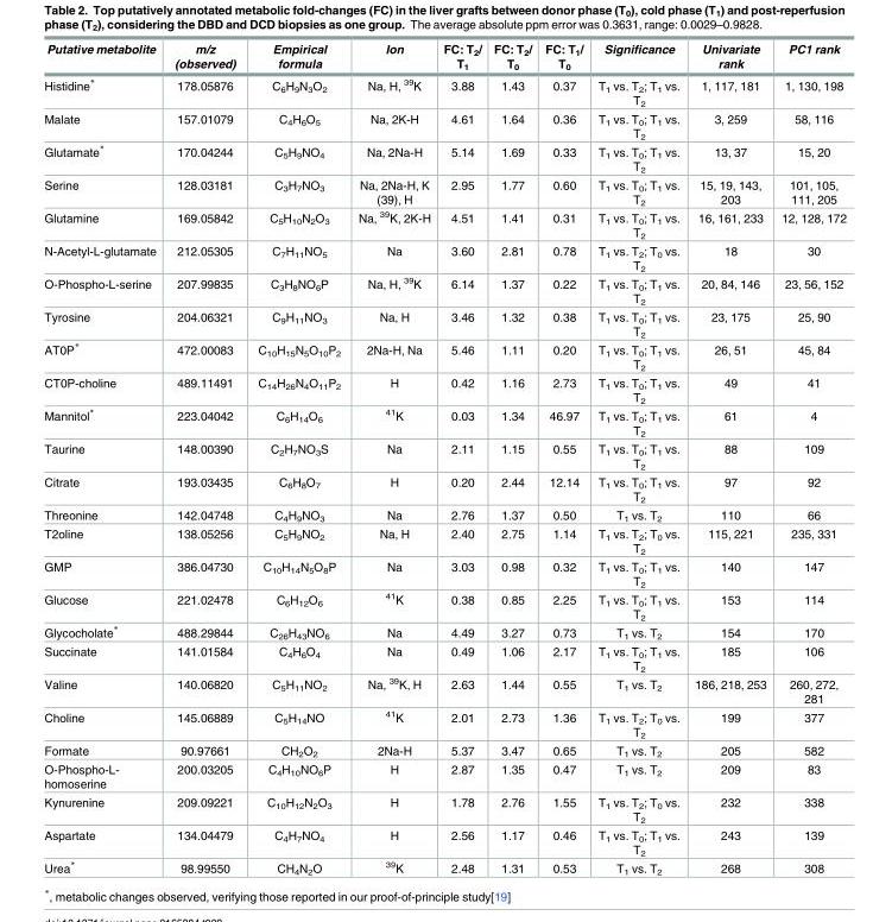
<table><thead><tr><td>Putative metabolite</td><td>m/z (observed)</td><td>Empirical formula</td><td>Ion</td><td>FC: T<sub>2</sub>/ T<sub>1</sub></td><td>FC: T<sub>2</sub>/ T<sub>0</sub></td><td>FC: T<sub>1</sub>/ T<sub>0</sub></td><td>Significance</td><td>Univariate rank</td><td>PC1 rank</td></tr></thead><tbody><tr><td>Histidine*</td><td>178.05876</td><td>C<sub>6</sub>H<sub>9</sub>N<sub>3</sub>O<sub>2</sub></td><td>Na, H, <sup>39</sup>K</td><td>3.88</td><td>1.43</td><td>0.37</td><td>T<sub>1</sub> vs. T<sub>2</sub>; T<sub>1</sub> vs. T<sub>2</sub></td><td>1, 117, 181</td><td>1, 130, 198</td></tr><tr><td>Malate</td><td>157.01079</td><td>C<sub>4</sub>H<sub>6</sub>O<sub>5</sub></td><td>Na, 2K-H</td><td>4.61</td><td>1.64</td><td>0.36</td><td>T<sub>1</sub> vs. T<sub>0</sub>; T<sub>1</sub> vs. T<sub>2</sub></td><td>3, 259</td><td>58, 116</td></tr><tr><td>Glutamate*</td><td>170.04244</td><td>C<sub>5</sub>H<sub>9</sub>NO<sub>4</sub></td><td>Na, 2Na-H</td><td>5.14</td><td>1.69</td><td>0.33</td><td>T<sub>1</sub> vs. T<sub>0</sub>; T<sub>1</sub> vs. T<sub>2</sub></td><td>13, 37</td><td>15, 20</td></tr><tr><td>Serine</td><td>128.03181</td><td>C<sub>3</sub>H<sub>7</sub>NO<sub>3</sub></td><td>Na, 2Na-H, K (39), H</td><td>2.95</td><td>1.77</td><td>0.60</td><td>T<sub>1</sub> vs. T<sub>0</sub>; T<sub>1</sub> vs. T<sub>2</sub></td><td>15, 19, 143, 203</td><td>101, 105, 111, 205</td></tr><tr><td>Glutamine</td><td>169.05842</td><td>C<sub>5</sub>H<sub>10</sub>N<sub>2</sub>O<sub>3</sub></td><td>Na, <sup>39</sup>K, 2K-H</td><td>4.51</td><td>1.41</td><td>0.31</td><td>T<sub>1</sub> vs. T<sub>0</sub>; T<sub>1</sub> vs. T<sub>2</sub></td><td>16, 161, 233</td><td>12, 128, 172</td></tr><tr><td>N-Acetyl-L-glutamate</td><td>212.05305</td><td>C<sub>7</sub>H<sub>11</sub>NO<sub>5</sub></td><td>Na</td><td>3.60</td><td>2.81</td><td>0.78</td><td>T<sub>1</sub> vs. T<sub>2</sub>; T<sub>0</sub> vs. T<sub>2</sub></td><td>18</td><td>30</td></tr><tr><td>O-Phospho-L-serine</td><td>207.99835</td><td>C<sub>3</sub>H<sub>8</sub>NO<sub>6</sub>P</td><td>Na, H, <sup>39</sup>K</td><td>6.14</td><td>1.37</td><td>0.22</td><td>T<sub>1</sub> vs. T<sub>0</sub>; T<sub>1</sub> vs. T<sub>2</sub></td><td>20, 84, 146</td><td>23, 56, 152</td></tr><tr><td>Tyrosine</td><td>204.06321</td><td>C<sub>9</sub>H<sub>11</sub>NO<sub>3</sub></td><td>Na, H</td><td>3.46</td><td>1.32</td><td>0.38</td><td>T<sub>1</sub> vs. T<sub>0</sub>; T<sub>1</sub> vs. T<sub>2</sub></td><td>23, 175</td><td>25, 90</td></tr><tr><td>AT0P*</td><td>472.00083</td><td>C<sub>10</sub>H<sub>15</sub>N<sub>5</sub>O<sub>10</sub>P<sub>2</sub></td><td>2Na-H, Na</td><td>5.46</td><td>1.11</td><td>0.20</td><td>T<sub>1</sub> vs. T<sub>0</sub>; T<sub>1</sub> vs. T<sub>2</sub></td><td>26, 51</td><td>45, 84</td></tr><tr><td>CT0P-choline</td><td>489.11491</td><td>C<sub>14</sub>H<sub>26</sub>N<sub>4</sub>O<sub>11</sub>P<sub>2</sub></td><td>H</td><td>0.42</td><td>1.16</td><td>2.73</td><td>T<sub>1</sub> vs. T<sub>0</sub>; T<sub>1</sub> vs. T<sub>2</sub></td><td>49</td><td>41</td></tr><tr><td>Mannitol*</td><td>223.04042</td><td>C<sub>6</sub>H<sub>14</sub>O<sub>6</sub></td><td><sup>41</sup>K</td><td>0.03</td><td>1.34</td><td>46.97</td><td>T<sub>1</sub> vs. T<sub>0</sub>; T<sub>1</sub> vs. T<sub>2</sub></td><td>61</td><td>4</td></tr><tr><td>Taurine</td><td>148.00390</td><td>C<sub>2</sub>H<sub>7</sub>NO<sub>3</sub>S</td><td>Na</td><td>2.11</td><td>1.15</td><td>0.55</td><td>T<sub>1</sub> vs. T<sub>0</sub>; T<sub>1</sub> vs. T<sub>2</sub></td><td>88</td><td>109</td></tr><tr><td>Citrate</td><td>193.03435</td><td>C<sub>6</sub>H<sub>8</sub>O<sub>7</sub></td><td>H</td><td>0.20</td><td>2.44</td><td>12.14</td><td>T<sub>1</sub> vs. T<sub>0</sub>; T<sub>1</sub> vs. T<sub>2</sub></td><td>97</td><td>92</td></tr><tr><td>Threonine</td><td>142.04748</td><td>C<sub>4</sub>H<sub>9</sub>NO<sub>3</sub></td><td>Na</td><td>2.76</td><td>1.37</td><td>0.50</td><td>T<sub>1</sub> vs. T<sub>2</sub></td><td>110</td><td>66</td></tr><tr><td>T2oline</td><td>138.05256</td><td>C<sub>5</sub>H<sub>9</sub>NO<sub>2</sub></td><td>Na, H</td><td>2.40</td><td>2.75</td><td>1.14</td><td>T<sub>1</sub> vs. T<sub>2</sub>; T<sub>0</sub> vs. T<sub>2</sub></td><td>115, 221</td><td>235, 331</td></tr><tr><td>GMP</td><td>386.04730</td><td>C<sub>10</sub>H<sub>14</sub>N<sub>5</sub>O<sub>8</sub>P</td><td>Na</td><td>3.03</td><td>0.98</td><td>0.32</td><td>T<sub>1</sub> vs. T<sub>0</sub>; T<sub>1</sub> vs. T<sub>2</sub></td><td>140</td><td>147</td></tr><tr><td>Glucose</td><td>221.02478</td><td>C<sub>6</sub>H<sub>12</sub>O<sub>6</sub></td><td><sup>41</sup>K</td><td>0.38</td><td>0.85</td><td>2.25</td><td>T<sub>1</sub> vs. T<sub>0</sub>; T<sub>1</sub> vs. T<sub>2</sub></td><td>153</td><td>114</td></tr><tr><td>Glycocholate*</td><td>488.29844</td><td>C<sub>26</sub>H<sub>43</sub>NO<sub>6</sub></td><td>Na</td><td>4.49</td><td>3.27</td><td>0.73</td><td>T<sub>1</sub> vs. T<sub>2</sub></td><td>154</td><td>170</td></tr><tr><td>Succinate</td><td>141.01584</td><td>C<sub>4</sub>H<sub>6</sub>O<sub>4</sub></td><td>Na</td><td>0.49</td><td>1.06</td><td>2.17</td><td>T<sub>1</sub> vs. T<sub>0</sub>; T<sub>1</sub> vs. T<sub>2</sub></td><td>185</td><td>106</td></tr><tr><td>Valine</td><td>140.06820</td><td>C<sub>5</sub>H<sub>11</sub>NO<sub>2</sub></td><td>Na, <sup>39</sup>K, H</td><td>2.63</td><td>1.44</td><td>0.55</td><td>T<sub>1</sub> vs. T<sub>2</sub></td><td>186, 218, 253</td><td>260, 272, 281</td></tr><tr><td>Choline</td><td>145.06889</td><td>C<sub>5</sub>H<sub>14</sub>NO</td><td><sup>41</sup>K</td><td>2.01</td><td>2.73</td><td>1.36</td><td>T<sub>1</sub> vs. T<sub>2</sub>; T<sub>0</sub> vs. T<sub>2</sub></td><td>199</td><td>377</td></tr><tr><td>Formate</td><td>90.97661</td><td>CH<sub>2</sub>O<sub>2</sub></td><td>2Na-H</td><td>5.37</td><td>3.47</td><td>0.65</td><td>T<sub>1</sub> vs. T<sub>2</sub></td><td>205</td><td>582</td></tr><tr><td>O-Phospho-L- homoserine</td><td>200.03205</td><td>C<sub>4</sub>H<sub>10</sub>NO<sub>6</sub>P</td><td>H</td><td>2.87</td><td>1.35</td><td>0.47</td><td>T<sub>1</sub> vs. T<sub>2</sub></td><td>209</td><td>83</td></tr><tr><td>Kynurenine</td><td>209.09221</td><td>C<sub>10</sub>H<sub>12</sub>N<sub>2</sub>O<sub>3</sub></td><td>H</td><td>1.78</td><td>2.76</td><td>1.55</td><td>T<sub>1</sub> vs. T<sub>2</sub>; T<sub>0</sub> vs. T<sub>2</sub></td><td>232</td><td>338</td></tr><tr><td>Aspartate</td><td>134.04479</td><td>C<sub>4</sub>H<sub>7</sub>NO<sub>4</sub></td><td>H</td><td>2.56</td><td>1.17</td><td>0.46</td><td>T<sub>1</sub> vs. T<sub>0</sub>; T<sub>1</sub> vs. T<sub>2</sub></td><td>243</td><td>139</td></tr><tr><td>Urea*</td><td>98.99550</td><td>CH<sub>4</sub>N<sub>2</sub>O</td><td><sup>39</sup>K</td><td>2.48</td><td>1.31</td><td>0.53</td><td>T<sub>1</sub> vs. T<sub>2</sub></td><td>268</td><td>308</td></tr></tbody></table>